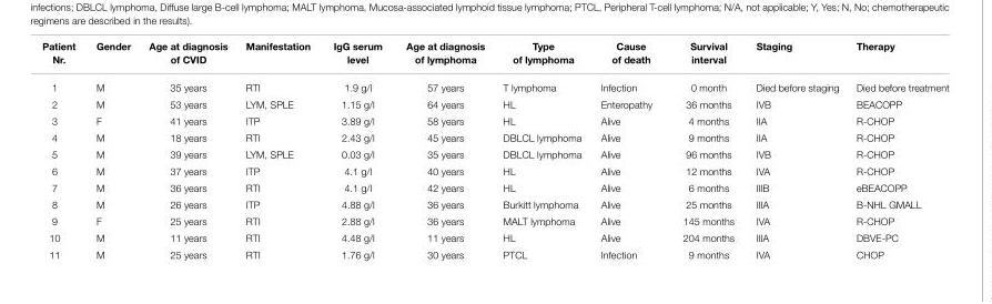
<table><thead><tr><td>Patient Nr.</td><td>Gender</td><td>Age at diagnosis of CVID</td><td>Manifestation</td><td>IgG serum level</td><td>Age at diagnosis of lymphoma</td><td>Type of lymphoma</td><td>Cause of death</td><td>Survival interval</td><td>Staging</td><td>Therapy</td></tr></thead><tbody><tr><td>1</td><td>M</td><td>35 years</td><td>RTI</td><td>1.9 g/l</td><td>57 years</td><td>T lymphoma</td><td>Infection</td><td>0 month</td><td>Died before staging</td><td>Died before treatment</td></tr><tr><td>2</td><td>M</td><td>53 years</td><td>LYM, SPLE</td><td>1.15 g/l</td><td>64 years</td><td>HL</td><td>Enteropathy</td><td>36 months</td><td>IVB</td><td>BEACOPP</td></tr><tr><td>3</td><td>F</td><td>41 years</td><td>ITP</td><td>3.89 g/l</td><td>58 years</td><td>HL</td><td>Alive</td><td>4 months</td><td>IIA</td><td>R-CHOP</td></tr><tr><td>4</td><td>M</td><td>18 years</td><td>RTI</td><td>2.43 g/l</td><td>45 years</td><td>DBLCL lymphoma</td><td>Alive</td><td>9 months</td><td>IIA</td><td>R-CHOP</td></tr><tr><td>5</td><td>M</td><td>39 years</td><td>LYM, SPLE</td><td>0.03 g/l</td><td>35 years</td><td>DBLCL lymphoma</td><td>Alive</td><td>96 months</td><td>IVB</td><td>R-CHOP</td></tr><tr><td>6</td><td>M</td><td>37 years</td><td>ITP</td><td>4.1 g/l</td><td>40 years</td><td>HL</td><td>Alive</td><td>12 months</td><td>IVA</td><td>R-CHOP</td></tr><tr><td>7</td><td>M</td><td>36 years</td><td>RTI</td><td>4.1 g/l</td><td>42 years</td><td>HL</td><td>Alive</td><td>6 months</td><td>IIIB</td><td>eBEACOPP</td></tr><tr><td>8</td><td>M</td><td>26 years</td><td>ITP</td><td>4.88 g/l</td><td>36 years</td><td>Burkitt lymphoma</td><td>Alive</td><td>25 months</td><td>IIIA</td><td>B-NHL GMALL</td></tr><tr><td>9</td><td>F</td><td>25 years</td><td>RTI</td><td>2.88 g/l</td><td>36 years</td><td>MALT lymphoma</td><td>Alive</td><td>145 months</td><td>IVA</td><td>R-CHOP</td></tr><tr><td>10</td><td>M</td><td>11 years</td><td>RTI</td><td>4.48 g/l</td><td>11 years</td><td>HL</td><td>Alive</td><td>204 months</td><td>IIIA</td><td>DBVE-PC</td></tr><tr><td>11</td><td>M</td><td>25 years</td><td>RTI</td><td>1.76 g/l</td><td>30 years</td><td>PTCL</td><td>Infection</td><td>9 months</td><td>IVA</td><td>CHOP</td></tr></tbody></table>